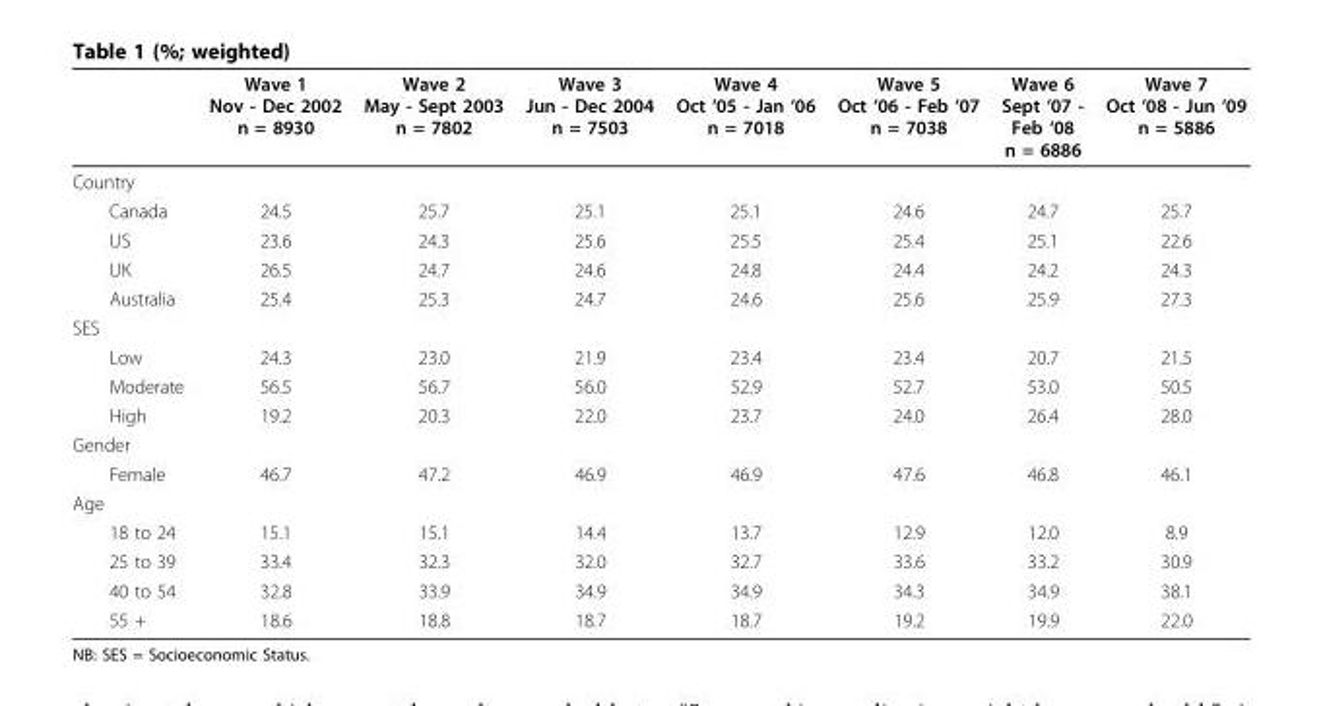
<table><thead><tr><td></td><td>Wave 1 Nov - Dec 2002 n = 8930</td><td>Wave 2 May - Sept 2003 n = 7802</td><td>Wave 3 Jun - Dec 2004 n = 7503</td><td>Wave 4 Oct ‘05 - Jan ‘06 n = 7018</td><td>Wave 5 Oct ‘06 - Feb ‘07 n = 7038</td><td>Wave 6 Sept ‘07 - Feb ‘08 n = 6886</td><td>Wave 7 Oct ‘08 - Jun ‘09 n = 5886</td></tr></thead><tbody><tr><td colspan="8">Country</td></tr><tr><td>Canada</td><td>24.5</td><td>25.7</td><td>25.1</td><td>25.1</td><td>24.6</td><td>24.7</td><td>25.7</td></tr><tr><td>US</td><td>23.6</td><td>24.3</td><td>25.6</td><td>25.5</td><td>25.4</td><td>25.1</td><td>22.6</td></tr><tr><td>UK</td><td>26.5</td><td>24.7</td><td>24.6</td><td>24.8</td><td>24.4</td><td>24.2</td><td>24.3</td></tr><tr><td>Australia</td><td>25.4</td><td>25.3</td><td>24.7</td><td>24.6</td><td>25.6</td><td>25.9</td><td>27.3</td></tr><tr><td colspan="8">SES</td></tr><tr><td>Low</td><td>24.3</td><td>23.0</td><td>21.9</td><td>23.4</td><td>23.4</td><td>20.7</td><td>21.5</td></tr><tr><td>Moderate</td><td>56.5</td><td>56.7</td><td>56.0</td><td>52.9</td><td>52.7</td><td>53.0</td><td>50.5</td></tr><tr><td>High</td><td>19.2</td><td>20.3</td><td>22.0</td><td>23.7</td><td>24.0</td><td>26.4</td><td>28.0</td></tr><tr><td colspan="8">Gender</td></tr><tr><td>Female</td><td>46.7</td><td>47.2</td><td>46.9</td><td>46.9</td><td>47.6</td><td>46.8</td><td>46.1</td></tr><tr><td colspan="8">Age</td></tr><tr><td>18 to 24</td><td>15.1</td><td>15.1</td><td>14.4</td><td>13.7</td><td>12.9</td><td>12.0</td><td>8.9</td></tr><tr><td>25 to 39</td><td>33.4</td><td>32.3</td><td>32.0</td><td>32.7</td><td>33.6</td><td>33.2</td><td>30.9</td></tr><tr><td>40 to 54</td><td>32.8</td><td>33.9</td><td>34.9</td><td>34.9</td><td>34.3</td><td>34.9</td><td>38.1</td></tr><tr><td>55 +</td><td>18.6</td><td>18.8</td><td>18.7</td><td>18.7</td><td>19.2</td><td>19.9</td><td>22.0</td></tr></tbody></table>